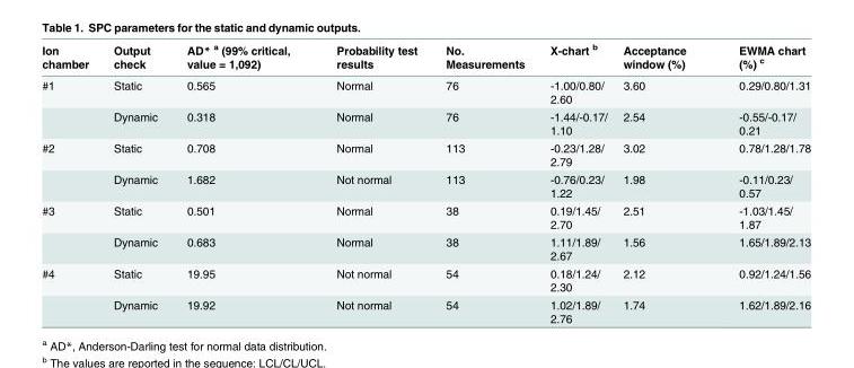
<table><thead><tr><td>Ion chamber</td><td>Output check</td><td>AD* <sup>a</sup> (99% critical, value = 1,092)</td><td>Probability test results</td><td>No. Measurements</td><td>X-chart <sup>b</sup></td><td>Acceptance window (%)</td><td>EWMA chart (%) <sup>c</sup></td></tr></thead><tbody><tr><td rowspan="2">#1</td><td>Static</td><td>0.565</td><td>Normal</td><td>76</td><td>-1.00/0.80/ 2.60</td><td>3.60</td><td>0.29/0.80/1.31</td></tr><tr><td>Dynamic</td><td>0.318</td><td>Normal</td><td>76</td><td>-1.44/-0.17/ 1.10</td><td>2.54</td><td>-0.55/-0.17/ 0.21</td></tr><tr><td rowspan="2">#2</td><td>Static</td><td>0.708</td><td>Normal</td><td>113</td><td>-0.23/1.28/ 2.79</td><td>3.02</td><td>0.78/1.28/1.78</td></tr><tr><td>Dynamic</td><td>1.682</td><td>Not normal</td><td>113</td><td>-0.76/0.23/ 1.22</td><td>1.98</td><td>-0.11/0.23/ 0.57</td></tr><tr><td rowspan="2">#3</td><td>Static</td><td>0.501</td><td>Normal</td><td>38</td><td>0.19/1.45/ 2.70</td><td>2.51</td><td>-1.03/1.45/ 1.87</td></tr><tr><td>Dynamic</td><td>0.683</td><td>Normal</td><td>38</td><td>1.11/1.89/ 2.67</td><td>1.56</td><td>1.65/1.89/2.13</td></tr><tr><td rowspan="2">#4</td><td>Static</td><td>19.95</td><td>Not normal</td><td>54</td><td>0.18/1.24/ 2.30</td><td>2.12</td><td>0.92/1.24/1.56</td></tr><tr><td>Dynamic</td><td>19.92</td><td>Not normal</td><td>54</td><td>1.02/1.89/ 2.76</td><td>1.74</td><td>1.62/1.89/2.16</td></tr></tbody></table>